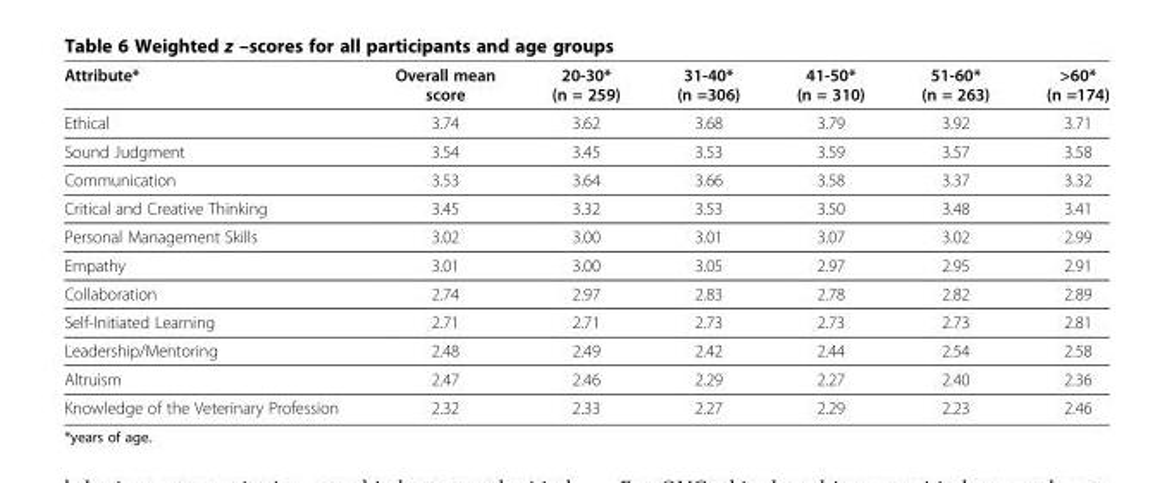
<table><thead><tr><td>Attribute*</td><td>Overall mean score</td><td>20-30* (n = 259)</td><td>31-40* (n =306)</td><td>41-50* (n = 310)</td><td>51-60* (n = 263)</td><td>&gt;60* (n =174)</td></tr></thead><tbody><tr><td>Ethical</td><td>3.74</td><td>3.62</td><td>3.68</td><td>3.79</td><td>3.92</td><td>3.71</td></tr><tr><td>Sound Judgment</td><td>3.54</td><td>3.45</td><td>3.53</td><td>3.59</td><td>3.57</td><td>3.58</td></tr><tr><td>Communication</td><td>3.53</td><td>3.64</td><td>3.66</td><td>3.58</td><td>3.37</td><td>3.32</td></tr><tr><td>Critical and Creative Thinking</td><td>3.45</td><td>3.32</td><td>3.53</td><td>3.50</td><td>3.48</td><td>3.41</td></tr><tr><td>Personal Management Skills</td><td>3.02</td><td>3.00</td><td>3.01</td><td>3.07</td><td>3.02</td><td>2.99</td></tr><tr><td>Empathy</td><td>3.01</td><td>3.00</td><td>3.05</td><td>2.97</td><td>2.95</td><td>2.91</td></tr><tr><td>Collaboration</td><td>2.74</td><td>2.97</td><td>2.83</td><td>2.78</td><td>2.82</td><td>2.89</td></tr><tr><td>Self-Initiated Learning</td><td>2.71</td><td>2.71</td><td>2.73</td><td>2.73</td><td>2.73</td><td>2.81</td></tr><tr><td>Leadership/Mentoring</td><td>2.48</td><td>2.49</td><td>2.42</td><td>2.44</td><td>2.54</td><td>2.58</td></tr><tr><td>Altruism</td><td>2.47</td><td>2.46</td><td>2.29</td><td>2.27</td><td>2.40</td><td>2.36</td></tr><tr><td>Knowledge of the Veterinary Profession</td><td>2.32</td><td>2.33</td><td>2.27</td><td>2.29</td><td>2.23</td><td>2.46</td></tr></tbody></table>